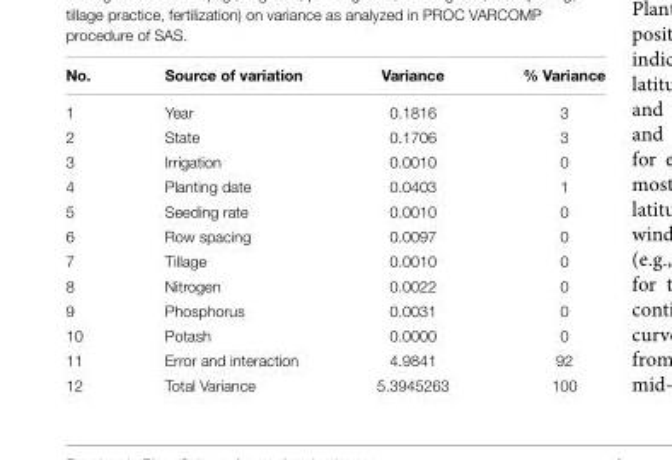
<table><thead><tr><td>No.</td><td>Source of variation</td><td>Variance</td><td>% Variance</td></tr></thead><tbody><tr><td>1</td><td>Year</td><td>0.1816</td><td>3</td></tr><tr><td>2</td><td>State</td><td>0.1706</td><td>3</td></tr><tr><td>3</td><td>Irrigation</td><td>0.0010</td><td>0</td></tr><tr><td>4</td><td>Planting date</td><td>0.0403</td><td>1</td></tr><tr><td>5</td><td>Seeding rate</td><td>0.0010</td><td>0</td></tr><tr><td>6</td><td>Row spacing</td><td>0.0097</td><td>0</td></tr><tr><td>7</td><td>Tillage</td><td>0.0010</td><td>0</td></tr><tr><td>8</td><td>Nitrogen</td><td>0.0022</td><td>0</td></tr><tr><td>9</td><td>Phosphorus</td><td>0.0031</td><td>0</td></tr><tr><td>10</td><td>Potash</td><td>0.0000</td><td>0</td></tr><tr><td>11</td><td>Error and interaction</td><td>4.9841</td><td>92</td></tr><tr><td>12</td><td>Total Variance</td><td>5.3945263</td><td>100</td></tr></tbody></table>